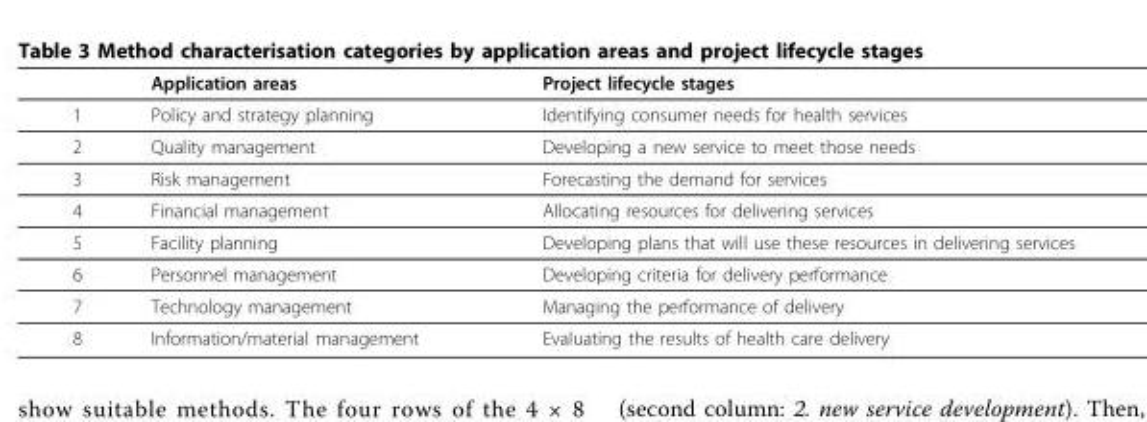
<table><thead><tr><td></td><td>Application areas</td><td>Project lifecycle stages</td></tr></thead><tbody><tr><td>1</td><td>Policy and strategy planning</td><td>Identifying consumer needs for health services</td></tr><tr><td>2</td><td>Quality management</td><td>Developing a new service to meet those needs</td></tr><tr><td>3</td><td>Risk management</td><td>Forecasting the demand for services</td></tr><tr><td>4</td><td>Financial management</td><td>Allocating resources for delivering services</td></tr><tr><td>5</td><td>Facility planning</td><td>Developing plans that will use these resources in delivering services</td></tr><tr><td>6</td><td>Personnel management</td><td>Developing criteria for delivery performance</td></tr><tr><td>7</td><td>Technology management</td><td>Managing the performance of delivery</td></tr><tr><td>8</td><td>Information/material management</td><td>Evaluating the results of health care delivery</td></tr></tbody></table>